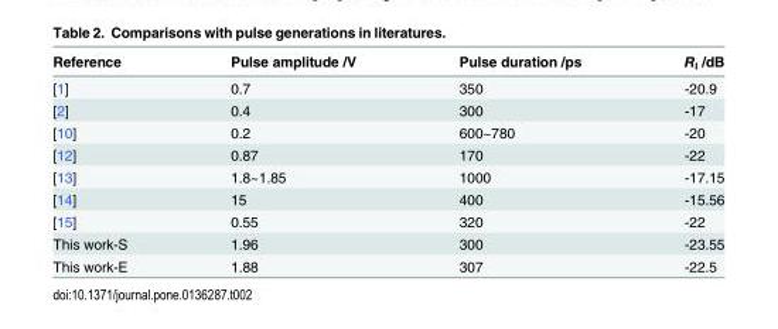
<table><thead><tr><td>Reference</td><td>Pulse amplitude /V</td><td>Pulse duration /ps</td><td>R<sub>l</sub> /dB</td></tr></thead><tbody><tr><td>[1]</td><td>0.7</td><td>350</td><td>-20.9</td></tr><tr><td>[2]</td><td>0.4</td><td>300</td><td>-17</td></tr><tr><td>[10]</td><td>0.2</td><td>600~780</td><td>-20</td></tr><tr><td>[12]</td><td>0.87</td><td>170</td><td>-22</td></tr><tr><td>[13]</td><td>1.8~1.85</td><td>1000</td><td>-17.15</td></tr><tr><td>[14]</td><td>15</td><td>400</td><td>-15.56</td></tr><tr><td>[15]</td><td>0.55</td><td>320</td><td>-22</td></tr><tr><td>This work-S</td><td>1.96</td><td>300</td><td>-23.55</td></tr><tr><td>This work-E</td><td>1.88</td><td>307</td><td>-22.5</td></tr></tbody></table>